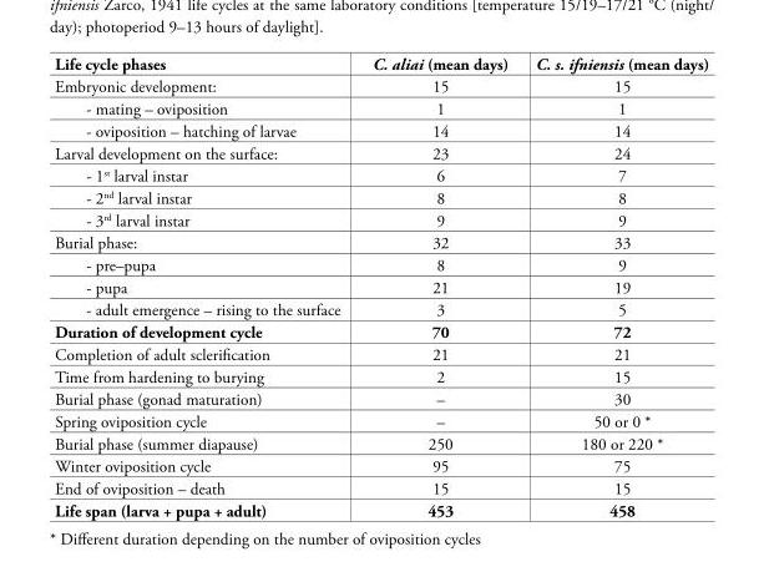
<table><thead><tr><td>Life cycle phases</td><td>C. aliai (mean days)</td><td>C. s. ifniensis (mean days)</td></tr></thead><tbody><tr><td>Embryonic development:</td><td>15</td><td>15</td></tr><tr><td>- mating – oviposition</td><td>1</td><td>1</td></tr><tr><td>- oviposition – hatching of larvae</td><td>14</td><td>14</td></tr><tr><td>Larval development on the surface:</td><td>23</td><td>24</td></tr><tr><td>- 1<sup>st</sup> larval instar</td><td>6</td><td>7</td></tr><tr><td>- 2<sup>nd</sup> larval instar</td><td>8</td><td>8</td></tr><tr><td>- 3<sup>rd</sup> larval instar</td><td>9</td><td>9</td></tr><tr><td>Burial phase:</td><td>32</td><td>33</td></tr><tr><td>- pre–pupa</td><td>8</td><td>9</td></tr><tr><td>- pupa</td><td>21</td><td>19</td></tr><tr><td>- adult emergence – rising to the surface</td><td>3</td><td>5</td></tr><tr><td>Duration of development cycle</td><td>70</td><td>72</td></tr><tr><td>Completion of adult sclerification</td><td>21</td><td>21</td></tr><tr><td>Time from hardening to burying</td><td>2</td><td>15</td></tr><tr><td>Burial phase (gonad maturation)</td><td>–</td><td>30</td></tr><tr><td>Spring oviposition cycle</td><td>–</td><td>50 or 0 *</td></tr><tr><td>Burial phase (summer diapause)</td><td>250</td><td>180 or 220 *</td></tr><tr><td>Winter oviposition cycle</td><td>95</td><td>75</td></tr><tr><td>End of oviposition – death</td><td>15</td><td>15</td></tr><tr><td>Life span (larva + pupa + adult)</td><td>453</td><td>458</td></tr></tbody></table>